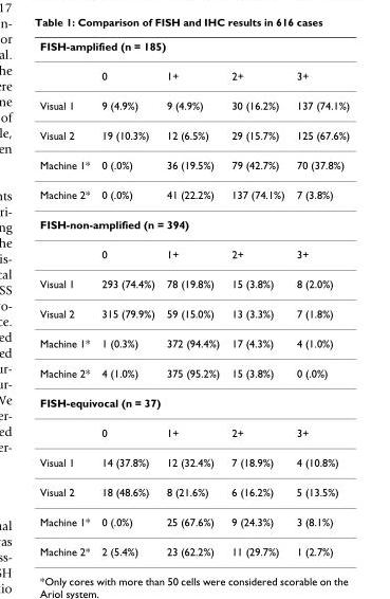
<table><thead><tr><td colspan="5">FISH-amplified (n = 185)</td></tr><tr><td></td><td>0</td><td>1+</td><td>2+</td><td>3+</td></tr></thead><tbody><tr><td>Visual 1</td><td>9 (4.9%)</td><td>9 (4.9%)</td><td>30 (16.2%)</td><td>137 (74.1%)</td></tr><tr><td>Visual 2</td><td>19 (10.3%)</td><td>12 (6.5%)</td><td>29 (15.7%)</td><td>125 (67.6%)</td></tr><tr><td>Machine 1*</td><td>0 (.0%)</td><td>36 (19.5%)</td><td>79 (42.7%)</td><td>70 (37.8%)</td></tr><tr><td>Machine 2*</td><td>0 (.0%)</td><td>41 (22.2%)</td><td>137 (74.1%)</td><td>7 (3.8%)</td></tr><tr><td colspan="5">FISH-non-amplified (n = 394)</td></tr><tr><td></td><td>0</td><td>1+</td><td>2+</td><td>3+</td></tr><tr><td>Visual 1</td><td>293 (74.4%)</td><td>78 (19.8%)</td><td>15 (3.8%)</td><td>8 (2.0%)</td></tr><tr><td>Visual 2</td><td>315 (79.9%)</td><td>59 (15.0%)</td><td>13 (3.3%)</td><td>7 (1.8%)</td></tr><tr><td>Machine 1*</td><td>1 (0.3%)</td><td>372 (94.4%)</td><td>17 (4.3%)</td><td>4 (1.0%)</td></tr><tr><td>Machine 2*</td><td>4 (1.0%)</td><td>375 (95.2%)</td><td>15 (3.8%)</td><td>0 (.0%)</td></tr><tr><td colspan="5">FISH-equivocal (n = 37)</td></tr><tr><td></td><td>0</td><td>1+</td><td>2+</td><td>3+</td></tr><tr><td>Visual 1</td><td>14 (37.8%)</td><td>12 (32.4%)</td><td>7 (18.9%)</td><td>4 (10.8%)</td></tr><tr><td>Visual 2</td><td>18 (48.6%)</td><td>8 (21.6%)</td><td>6 (16.2%)</td><td>5 (13.5%)</td></tr><tr><td>Machine 1*</td><td>0 (.0%)</td><td>25 (67.6%)</td><td>9 (24.3%)</td><td>3 (8.1%)</td></tr><tr><td>Machine 2*</td><td>2 (5.4%)</td><td>23 (62.2%)</td><td>11 (29.7%)</td><td>1 (2.7%)</td></tr></tbody></table>